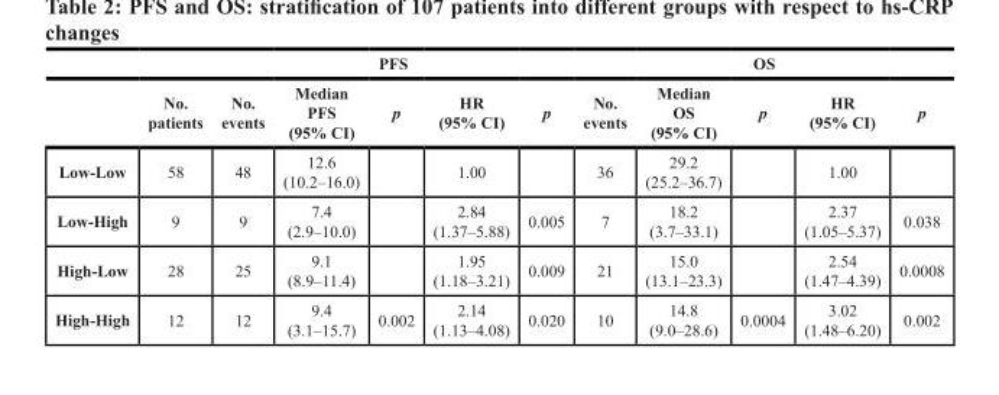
<table><thead><tr><td rowspan="2"></td><td rowspan="2">No. patients</td><td colspan="5">PFS</td><td colspan="5">OS</td></tr><tr><td>No. events</td><td>Median PFS (95% CI)</td><td>p</td><td>HR (95% CI)</td><td>p</td><td>No. events</td><td>Median OS (95% CI)</td><td>p</td><td>HR (95% CI)</td><td>p</td></tr></thead><tbody><tr><td>Low-Low</td><td>58</td><td>48</td><td>12.6 (10.2–16.0)</td><td></td><td>1.00</td><td></td><td>36</td><td>29.2 (25.2–36.7)</td><td></td><td>1.00</td><td></td></tr><tr><td>Low-High</td><td>9</td><td>9</td><td>7.4 (2.9–10.0)</td><td></td><td>2.84 (1.37–5.88)</td><td>0.005</td><td>7</td><td>18.2 (3.7–33.1)</td><td></td><td>2.37 (1.05–5.37)</td><td>0.038</td></tr><tr><td>High-Low</td><td>28</td><td>25</td><td>9.1 (8.9–11.4)</td><td></td><td>1.95 (1.18–3.21)</td><td>0.009</td><td>21</td><td>15.0 (13.1–23.3)</td><td></td><td>2.54 (1.47–4.39)</td><td>0.0008</td></tr><tr><td>High-High</td><td>12</td><td>12</td><td>9.4 (3.1–15.7)</td><td>0.002</td><td>2.14 (1.13–4.08)</td><td>0.020</td><td>10</td><td>14.8 (9.0–28.6)</td><td>0.0004</td><td>3.02 (1.48–6.20)</td><td>0.002</td></tr></tbody></table>